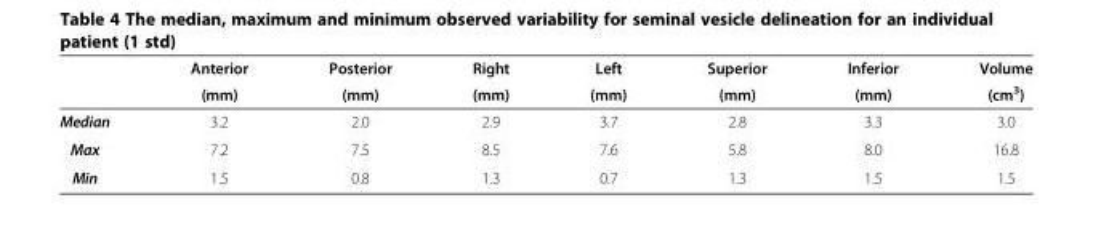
<table><thead><tr><td rowspan="2"></td><td rowspan="2">Anterior (mm)</td><td rowspan="2">Posterior (mm)</td><td rowspan="2">Right (mm)</td><td rowspan="2">Left (mm)</td><td rowspan="2">Superior (mm)</td><td rowspan="2">Inferior (mm)</td><td rowspan="2">Volume (cm<sup>3</sup>)</td></tr><tr></tr></thead><tbody><tr><td>Median</td><td>3.2</td><td>2.0</td><td>2.9</td><td>3.7</td><td>2.8</td><td>3.3</td><td>3.0</td></tr><tr><td>Max</td><td>7.2</td><td>7.5</td><td>8.5</td><td>7.6</td><td>5.8</td><td>8.0</td><td>16.8</td></tr><tr><td>Min</td><td>1.5</td><td>0.8</td><td>1.3</td><td>0.7</td><td>1.3</td><td>1.5</td><td>1.5</td></tr></tbody></table>